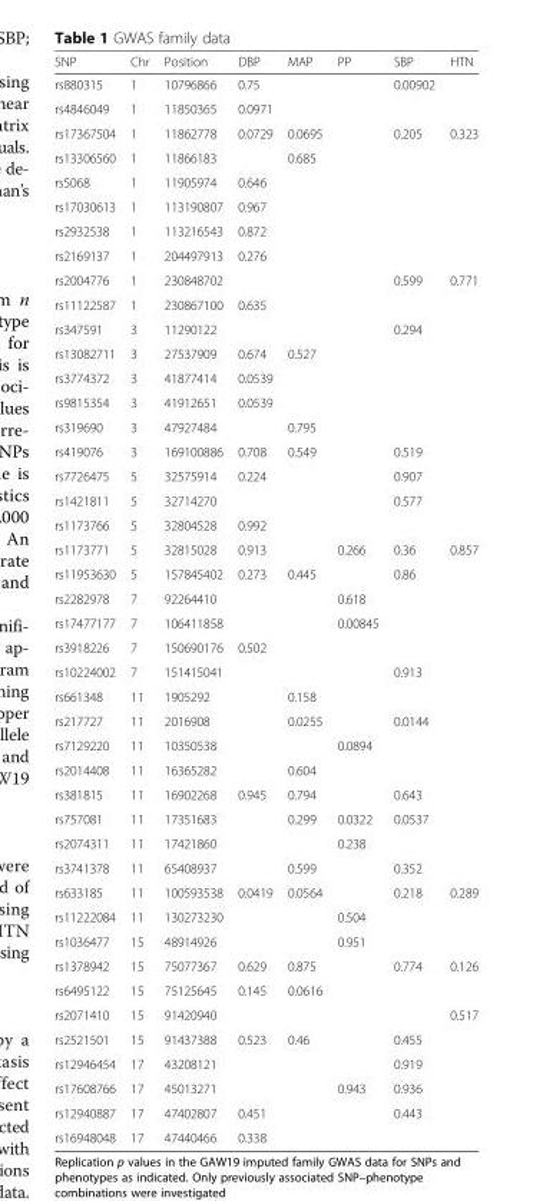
<table><thead><tr><td>SNP</td><td>Chr</td><td>Position</td><td>DBP</td><td>MAP</td><td>PP</td><td>SBP</td><td>HTN</td></tr></thead><tbody><tr><td>rs880315</td><td>1</td><td>10796866</td><td>0.75</td><td></td><td></td><td>0.00902</td><td></td></tr><tr><td>rs4846049</td><td>1</td><td>11850365</td><td>0.0971</td><td></td><td></td><td></td><td></td></tr><tr><td>rs17367504</td><td>1</td><td>11862778</td><td>0.0729</td><td>0.0695</td><td></td><td>0.205</td><td>0.323</td></tr><tr><td>rs13306560</td><td>1</td><td>11866183</td><td></td><td>0.685</td><td></td><td></td><td></td></tr><tr><td>rs5068</td><td>1</td><td>11905974</td><td>0.646</td><td></td><td></td><td></td><td></td></tr><tr><td>rs17030613</td><td>1</td><td>113190807</td><td>0.967</td><td></td><td></td><td></td><td></td></tr><tr><td>rs2932538</td><td>1</td><td>113216543</td><td>0.872</td><td></td><td></td><td></td><td></td></tr><tr><td>rs2169137</td><td>1</td><td>204497913</td><td>0.276</td><td></td><td></td><td></td><td></td></tr><tr><td>rs2004776</td><td>1</td><td>230848702</td><td></td><td></td><td></td><td>0.599</td><td>0.771</td></tr><tr><td>rs11122587</td><td>1</td><td>230867100</td><td>0.635</td><td></td><td></td><td></td><td></td></tr><tr><td>rs347591</td><td>3</td><td>11290122</td><td></td><td></td><td></td><td>0.294</td><td></td></tr><tr><td>rs13082711</td><td>3</td><td>27537909</td><td>0.674</td><td>0.527</td><td></td><td></td><td></td></tr><tr><td>rs3774372</td><td>3</td><td>41877414</td><td>0.0539</td><td></td><td></td><td></td><td></td></tr><tr><td>rs9815354</td><td>3</td><td>41912651</td><td>0.0539</td><td></td><td></td><td></td><td></td></tr><tr><td>rs319690</td><td>3</td><td>47927484</td><td></td><td>0.795</td><td></td><td></td><td></td></tr><tr><td>rs419076</td><td>3</td><td>169100886</td><td>0.708</td><td>0.549</td><td></td><td>0.519</td><td></td></tr><tr><td>rs7726475</td><td>5</td><td>32575914</td><td>0.224</td><td></td><td></td><td>0.907</td><td></td></tr><tr><td>rs1421811</td><td>5</td><td>32714270</td><td></td><td></td><td></td><td>0.577</td><td></td></tr><tr><td>rs1173766</td><td>5</td><td>32804528</td><td>0.992</td><td></td><td></td><td></td><td></td></tr><tr><td>rs1173771</td><td>5</td><td>32815028</td><td>0.913</td><td></td><td>0.266</td><td>0.36</td><td>0.857</td></tr><tr><td>rs11953630</td><td>5</td><td>157845402</td><td>0.273</td><td>0.445</td><td></td><td>0.86</td><td></td></tr><tr><td>rs2282978</td><td>7</td><td>92264410</td><td></td><td></td><td>0.618</td><td></td><td></td></tr><tr><td>rs17477177</td><td>7</td><td>106411858</td><td></td><td></td><td>0.00845</td><td></td><td></td></tr><tr><td>rs3918226</td><td>7</td><td>150690176</td><td>0.502</td><td></td><td></td><td></td><td></td></tr><tr><td>rs10224002</td><td>7</td><td>151415041</td><td></td><td></td><td></td><td>0.913</td><td></td></tr><tr><td>rs661348</td><td>11</td><td>1905292</td><td></td><td>0.158</td><td></td><td></td><td></td></tr><tr><td>rs217727</td><td>11</td><td>2016908</td><td></td><td>0.0255</td><td></td><td>0.0144</td><td></td></tr><tr><td>rs7129220</td><td>11</td><td>10350538</td><td></td><td></td><td>0.0894</td><td></td><td></td></tr><tr><td>rs2014408</td><td>11</td><td>16365282</td><td></td><td>0.604</td><td></td><td></td><td></td></tr><tr><td>rs381815</td><td>11</td><td>16902268</td><td>0.945</td><td>0.794</td><td></td><td>0.643</td><td></td></tr><tr><td>rs757081</td><td>11</td><td>17351683</td><td></td><td>0.299</td><td>0.0322</td><td>0.0537</td><td></td></tr><tr><td>rs2074311</td><td>11</td><td>17421860</td><td></td><td></td><td>0.238</td><td></td><td></td></tr><tr><td>rs3741378</td><td>11</td><td>65408937</td><td></td><td>0.599</td><td></td><td>0.352</td><td></td></tr><tr><td>rs633185</td><td>11</td><td>100593538</td><td>0.0419</td><td>0.0564</td><td></td><td>0.218</td><td>0.289</td></tr><tr><td>rs11222084</td><td>11</td><td>130273230</td><td></td><td></td><td>0.504</td><td></td><td></td></tr><tr><td>rs1036477</td><td>15</td><td>48914926</td><td></td><td></td><td>0.951</td><td></td><td></td></tr><tr><td>rs1378942</td><td>15</td><td>75077367</td><td>0.629</td><td>0.875</td><td></td><td>0.774</td><td>0.126</td></tr><tr><td>rs6495122</td><td>15</td><td>75125645</td><td>0.145</td><td>0.0616</td><td></td><td></td><td></td></tr><tr><td>rs2071410</td><td>15</td><td>91420940</td><td></td><td></td><td></td><td></td><td>0.517</td></tr><tr><td>rs2521501</td><td>15</td><td>91437388</td><td>0.523</td><td>0.46</td><td></td><td>0.455</td><td></td></tr><tr><td>rs12946454</td><td>17</td><td>43208121</td><td></td><td></td><td></td><td>0.919</td><td></td></tr><tr><td>rs17608766</td><td>17</td><td>45013271</td><td></td><td></td><td>0.943</td><td>0.936</td><td></td></tr><tr><td>rs12940887</td><td>17</td><td>47402807</td><td>0.451</td><td></td><td></td><td>0.443</td><td></td></tr><tr><td>rs16948048</td><td>17</td><td>47440466</td><td>0.338</td><td></td><td></td><td></td><td></td></tr></tbody></table>